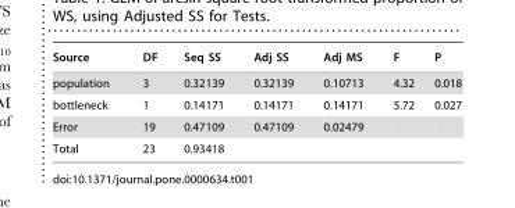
<table><thead><tr><td>Source</td><td>DF</td><td>Seq SS</td><td>Adj SS</td><td>Adj MS</td><td>F</td><td>P</td></tr></thead><tbody><tr><td>population</td><td>3</td><td>0.32139</td><td>0.32139</td><td>0.10713</td><td>4.32</td><td>0.018</td></tr><tr><td>bottleneck</td><td>1</td><td>0.14171</td><td>0.14171</td><td>0.14171</td><td>5.72</td><td>0.027</td></tr><tr><td>Error</td><td>19</td><td>0.47109</td><td>0.47109</td><td>0.02479</td><td></td><td></td></tr><tr><td>Total</td><td>23</td><td>0.93418</td><td></td><td></td><td></td><td></td></tr></tbody></table>